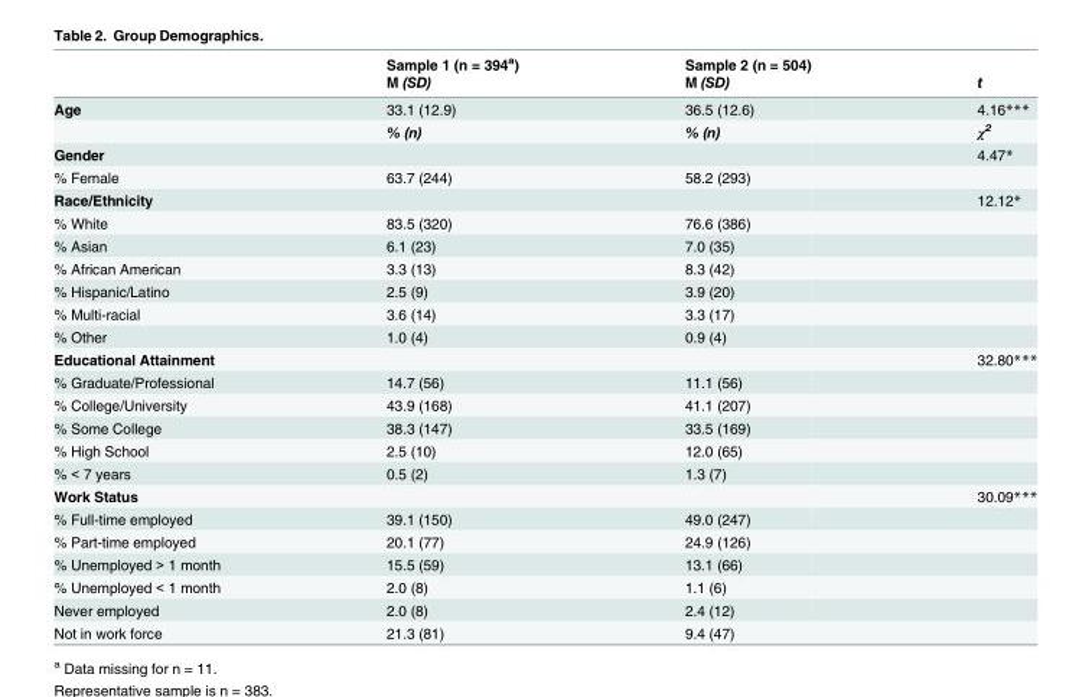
<table><thead><tr><td rowspan="2"></td><td rowspan="2">Sample 1 (n = 394<sup>a</sup>) M (SD)</td><td rowspan="2">Sample 2 (n = 504) M (SD)</td><td rowspan="2">t</td></tr><tr></tr></thead><tbody><tr><td rowspan="2">Age</td><td>33.1 (12.9)</td><td>36.5 (12.6)</td><td>4.16***</td></tr><tr><td>% (n)</td><td>% (n)</td><td>χ<sup>2</sup></td></tr><tr><td>Gender</td><td></td><td></td><td>4.47*</td></tr><tr><td>% Female</td><td>63.7 (244)</td><td>58.2 (293)</td><td></td></tr><tr><td>Race/Ethnicity</td><td></td><td></td><td>12.12*</td></tr><tr><td>% White</td><td>83.5 (320)</td><td>76.6 (386)</td><td></td></tr><tr><td>% Asian</td><td>6.1 (23)</td><td>7.0 (35)</td><td></td></tr><tr><td>% African American</td><td>3.3 (13)</td><td>8.3 (42)</td><td></td></tr><tr><td>% Hispanic/Latino</td><td>2.5 (9)</td><td>3.9 (20)</td><td></td></tr><tr><td>% Multi-racial</td><td>3.6 (14)</td><td>3.3 (17)</td><td></td></tr><tr><td>% Other</td><td>1.0 (4)</td><td>0.9 (4)</td><td></td></tr><tr><td>Educational Attainment</td><td></td><td></td><td>32.80***</td></tr><tr><td>% Graduate/Professional</td><td>14.7 (56)</td><td>11.1 (56)</td><td></td></tr><tr><td>% College/University</td><td>43.9 (168)</td><td>41.1 (207)</td><td></td></tr><tr><td>% Some College</td><td>38.3 (147)</td><td>33.5 (169)</td><td></td></tr><tr><td>% High School</td><td>2.5 (10)</td><td>12.0 (65)</td><td></td></tr><tr><td>% &lt; 7 years</td><td>0.5 (2)</td><td>1.3 (7)</td><td></td></tr><tr><td>Work Status</td><td></td><td></td><td>30.09***</td></tr><tr><td>% Full-time employed</td><td>39.1 (150)</td><td>49.0 (247)</td><td></td></tr><tr><td>% Part-time employed</td><td>20.1 (77)</td><td>24.9 (126)</td><td></td></tr><tr><td>% Unemployed &gt; 1 month</td><td>15.5 (59)</td><td>13.1 (66)</td><td></td></tr><tr><td>% Unemployed &lt; 1 month</td><td>2.0 (8)</td><td>1.1 (6)</td><td></td></tr><tr><td>Never employed</td><td>2.0 (8)</td><td>2.4 (12)</td><td></td></tr><tr><td>Not in work force</td><td>21.3 (81)</td><td>9.4 (47)</td><td></td></tr></tbody></table>